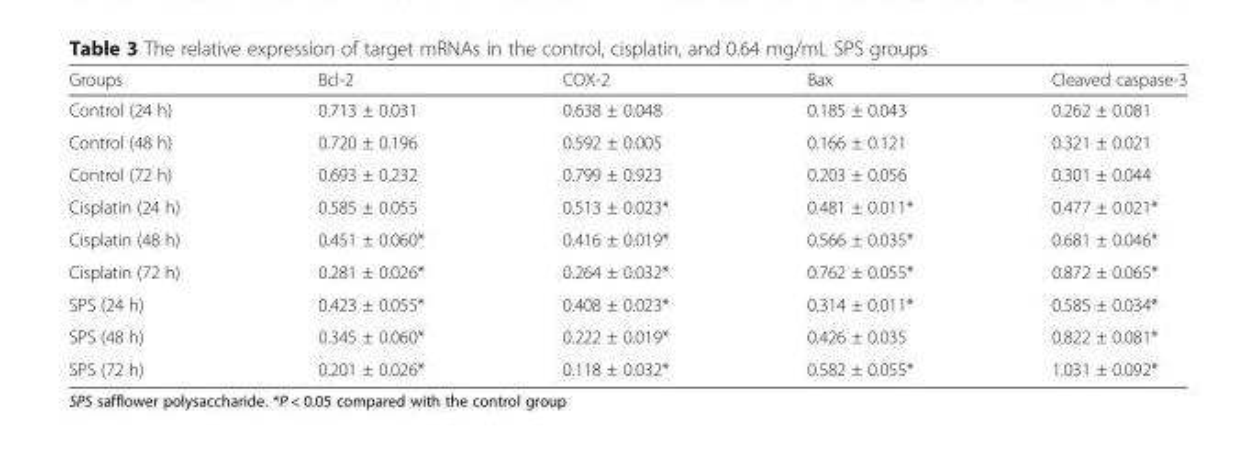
<table><thead><tr><td>Groups</td><td>Bcl-2</td><td>COX-2</td><td>Bax</td><td>Cleaved caspase-3</td></tr></thead><tbody><tr><td>Control (24 h)</td><td>0.713 ± 0.031</td><td>0.638 ± 0.048</td><td>0.185 ± 0.043</td><td>0.262 ± 0.081</td></tr><tr><td>Control (48 h)</td><td>0.720 ± 0.196</td><td>0.592 ± 0.005</td><td>0.166 ± 0.121</td><td>0.321 ± 0.021</td></tr><tr><td>Control (72 h)</td><td>0.693 ± 0.232</td><td>0.799 ± 0.923</td><td>0.203 ± 0.056</td><td>0.301 ± 0.044</td></tr><tr><td>Cisplatin (24 h)</td><td>0.585 ± 0.055</td><td>0.513 ± 0.023*</td><td>0.481 ± 0.011*</td><td>0.477 ± 0.021*</td></tr><tr><td>Cisplatin (48 h)</td><td>0.451 ± 0.060*</td><td>0.416 ± 0.019*</td><td>0.566 ± 0.035*</td><td>0.681 ± 0.046*</td></tr><tr><td>Cisplatin (72 h)</td><td>0.281 ± 0.026*</td><td>0.264 ± 0.032*</td><td>0.762 ± 0.055*</td><td>0.872 ± 0.065*</td></tr><tr><td>SPS (24 h)</td><td>0.423 ± 0.055*</td><td>0.408 ± 0.023*</td><td>0.314 ± 0.011*</td><td>0.585 ± 0.034*</td></tr><tr><td>SPS (48 h)</td><td>0.345 ± 0.060*</td><td>0.222 ± 0.019*</td><td>0.426 ± 0.035</td><td>0.822 ± 0.081*</td></tr><tr><td>SPS (72 h)</td><td>0.201 ± 0.026*</td><td>0.118 ± 0.032*</td><td>0.582 ± 0.055*</td><td>1.031 ± 0.092*</td></tr></tbody></table>